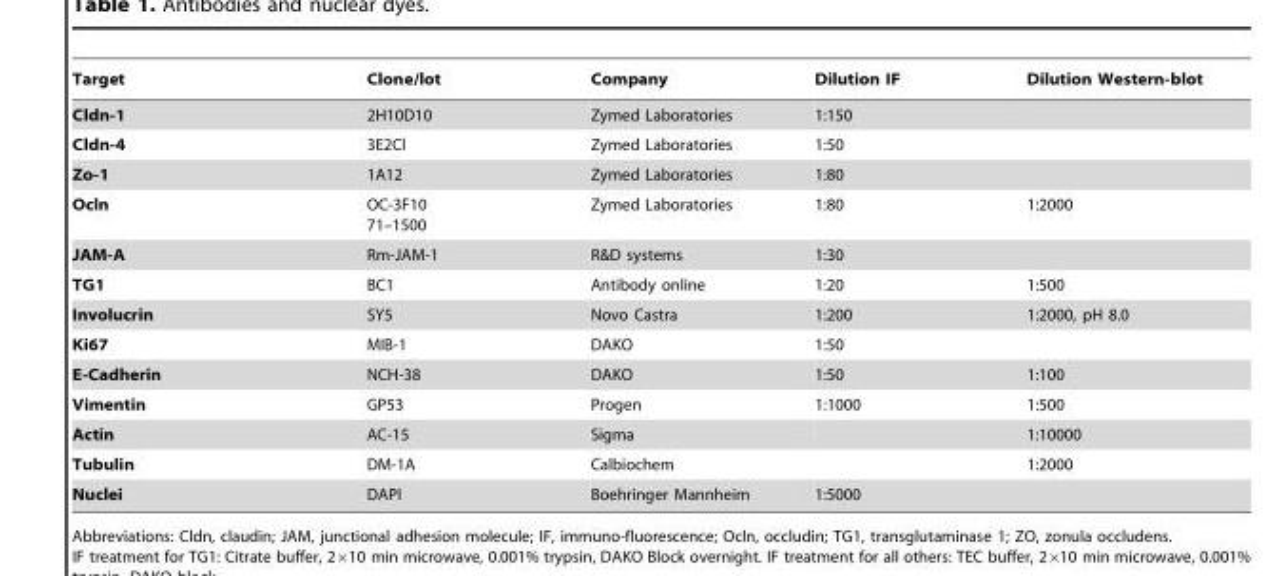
<table><thead><tr><td>Target</td><td>Clone/lot</td><td>Company</td><td>Dilution IF</td><td>Dilution Western-blot</td></tr></thead><tbody><tr><td>Cldn-1</td><td>2H10D10</td><td>Zymed Laboratories</td><td>1:150</td><td></td></tr><tr><td>Cldn-4</td><td>3E2Cl</td><td>Zymed Laboratories</td><td>1:50</td><td></td></tr><tr><td>Zo-1</td><td>1A12</td><td>Zymed Laboratories</td><td>1:80</td><td></td></tr><tr><td>Ocln</td><td>OC-3F10 71–1500</td><td>Zymed Laboratories</td><td>1:80</td><td>1:2000</td></tr><tr><td>JAM-A</td><td>Rm-JAM-1</td><td>R&amp;D systems</td><td>1:30</td><td></td></tr><tr><td>TG1</td><td>BC1</td><td>Antibody online</td><td>1:20</td><td>1:500</td></tr><tr><td>Involucrin</td><td>SY5</td><td>Novo Castra</td><td>1:200</td><td>1:2000, pH 8.0</td></tr><tr><td>Ki67</td><td>MIB-1</td><td>DAKO</td><td>1:50</td><td></td></tr><tr><td>E-Cadherin</td><td>NCH-38</td><td>DAKO</td><td>1:50</td><td>1:100</td></tr><tr><td>Vimentin</td><td>GP53</td><td>Progen</td><td>1:1000</td><td>1:500</td></tr><tr><td>Actin</td><td>AC-15</td><td>Sigma</td><td></td><td>1:10000</td></tr><tr><td>Tubulin</td><td>DM-1A</td><td>Calbiochem</td><td></td><td>1:2000</td></tr><tr><td>Nuclei</td><td>DAPI</td><td>Boehringer Mannheim</td><td>1:5000</td><td></td></tr></tbody></table>